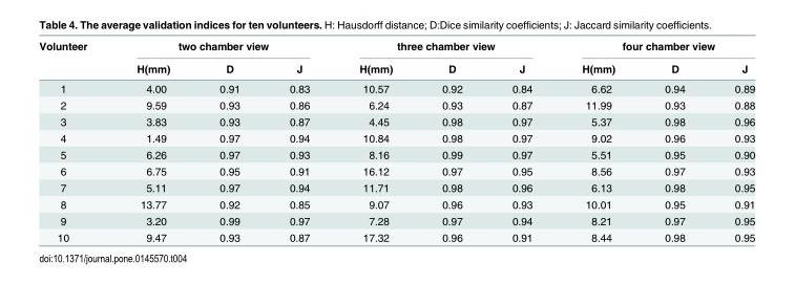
<table><thead><tr><td rowspan="2">Volunteer</td><td colspan="3">two chamber view</td><td colspan="3">three chamber view</td><td colspan="3">four chamber view</td></tr><tr><td>H(mm)</td><td>D</td><td>J</td><td>H(mm)</td><td>D</td><td>J</td><td>H(mm)</td><td>D</td><td>J</td></tr></thead><tbody><tr><td>1</td><td>4.00</td><td>0.91</td><td>0.83</td><td>10.57</td><td>0.92</td><td>0.84</td><td>6.62</td><td>0.94</td><td>0.89</td></tr><tr><td>2</td><td>9.59</td><td>0.93</td><td>0.86</td><td>6.24</td><td>0.93</td><td>0.87</td><td>11.99</td><td>0.93</td><td>0.88</td></tr><tr><td>3</td><td>3.83</td><td>0.93</td><td>0.87</td><td>4.45</td><td>0.98</td><td>0.97</td><td>5.37</td><td>0.98</td><td>0.96</td></tr><tr><td>4</td><td>1.49</td><td>0.97</td><td>0.94</td><td>10.84</td><td>0.98</td><td>0.97</td><td>9.02</td><td>0.96</td><td>0.93</td></tr><tr><td>5</td><td>6.26</td><td>0.97</td><td>0.93</td><td>8.16</td><td>0.99</td><td>0.97</td><td>5.51</td><td>0.95</td><td>0.90</td></tr><tr><td>6</td><td>6.75</td><td>0.95</td><td>0.91</td><td>16.12</td><td>0.97</td><td>0.95</td><td>8.56</td><td>0.97</td><td>0.93</td></tr><tr><td>7</td><td>5.11</td><td>0.97</td><td>0.94</td><td>11.71</td><td>0.98</td><td>0.96</td><td>6.13</td><td>0.98</td><td>0.95</td></tr><tr><td>8</td><td>13.77</td><td>0.92</td><td>0.85</td><td>9.07</td><td>0.96</td><td>0.93</td><td>10.01</td><td>0.95</td><td>0.91</td></tr><tr><td>9</td><td>3.20</td><td>0.99</td><td>0.97</td><td>7.28</td><td>0.97</td><td>0.94</td><td>8.21</td><td>0.97</td><td>0.95</td></tr><tr><td>10</td><td>9.47</td><td>0.93</td><td>0.87</td><td>17.32</td><td>0.96</td><td>0.91</td><td>8.44</td><td>0.98</td><td>0.95</td></tr></tbody></table>